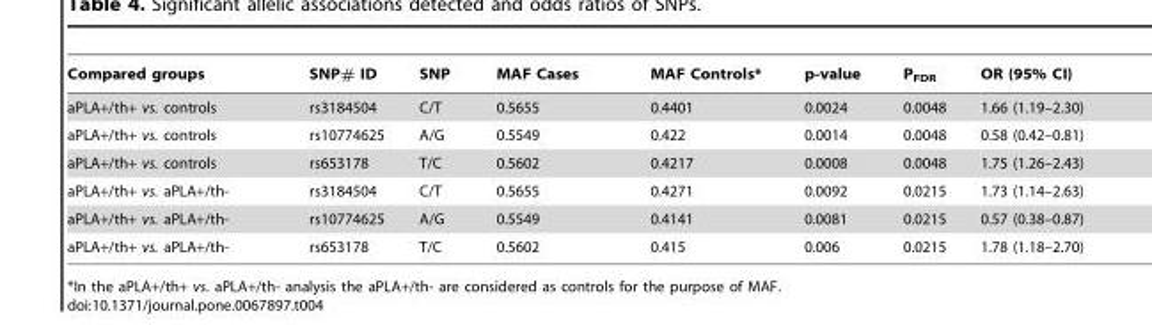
<table><thead><tr><td>Compared groups</td><td>SNP# ID</td><td>SNP</td><td>MAF Cases</td><td>MAF Controls*</td><td>p-value</td><td>P<sub>FDR</sub></td><td>OR (95% CI)</td></tr></thead><tbody><tr><td>aPLA+/th+ vs. controls</td><td>rs3184504</td><td>C/T</td><td>0.5655</td><td>0.4401</td><td>0.0024</td><td>0.0048</td><td>1.66 (1.19–2.30)</td></tr><tr><td>aPLA+/th+ vs. controls</td><td>rs10774625</td><td>A/G</td><td>0.5549</td><td>0.422</td><td>0.0014</td><td>0.0048</td><td>0.58 (0.42–0.81)</td></tr><tr><td>aPLA+/th+ vs. controls</td><td>rs653178</td><td>T/C</td><td>0.5602</td><td>0.4217</td><td>0.0008</td><td>0.0048</td><td>1.75 (1.26–2.43)</td></tr><tr><td>aPLA+/th+ vs. aPLA+/th-</td><td>rs3184504</td><td>C/T</td><td>0.5655</td><td>0.4271</td><td>0.0092</td><td>0.0215</td><td>1.73 (1.14–2.63)</td></tr><tr><td>aPLA+/th+ vs. aPLA+/th-</td><td>rs10774625</td><td>A/G</td><td>0.5549</td><td>0.4141</td><td>0.0081</td><td>0.0215</td><td>0.57 (0.38–0.87)</td></tr><tr><td>aPLA+/th+ vs. aPLA+/th-</td><td>rs653178</td><td>T/C</td><td>0.5602</td><td>0.415</td><td>0.006</td><td>0.0215</td><td>1.78 (1.18–2.70)</td></tr></tbody></table>